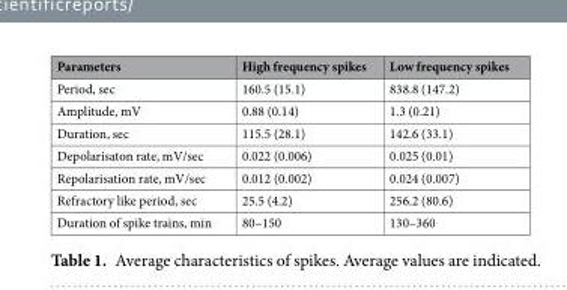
<table><thead><tr><td>Parameters</td><td>High frequency spikes</td><td>Low frequency spikes</td></tr></thead><tbody><tr><td>Period, sec</td><td>160.5 (15.1)</td><td>838.8 (147.2)</td></tr><tr><td>Amplitude, mV</td><td>0.88 (0.14)</td><td>1.3 (0.21)</td></tr><tr><td>Duration, sec</td><td>115.5 (28.1)</td><td>142.6 (33.1)</td></tr><tr><td>Depolarisaton rate, mV/sec</td><td>0.022 (0.006)</td><td>0.025 (0.01)</td></tr><tr><td>Repolarisation rate, mV/sec</td><td>0.012 (0.002)</td><td>0.024 (0.007)</td></tr><tr><td>Refractory like period, sec</td><td>25.5 (4.2)</td><td>256.2 (80.6)</td></tr><tr><td>Duration of spike trains, min</td><td>80–150</td><td>130–360</td></tr></tbody></table>